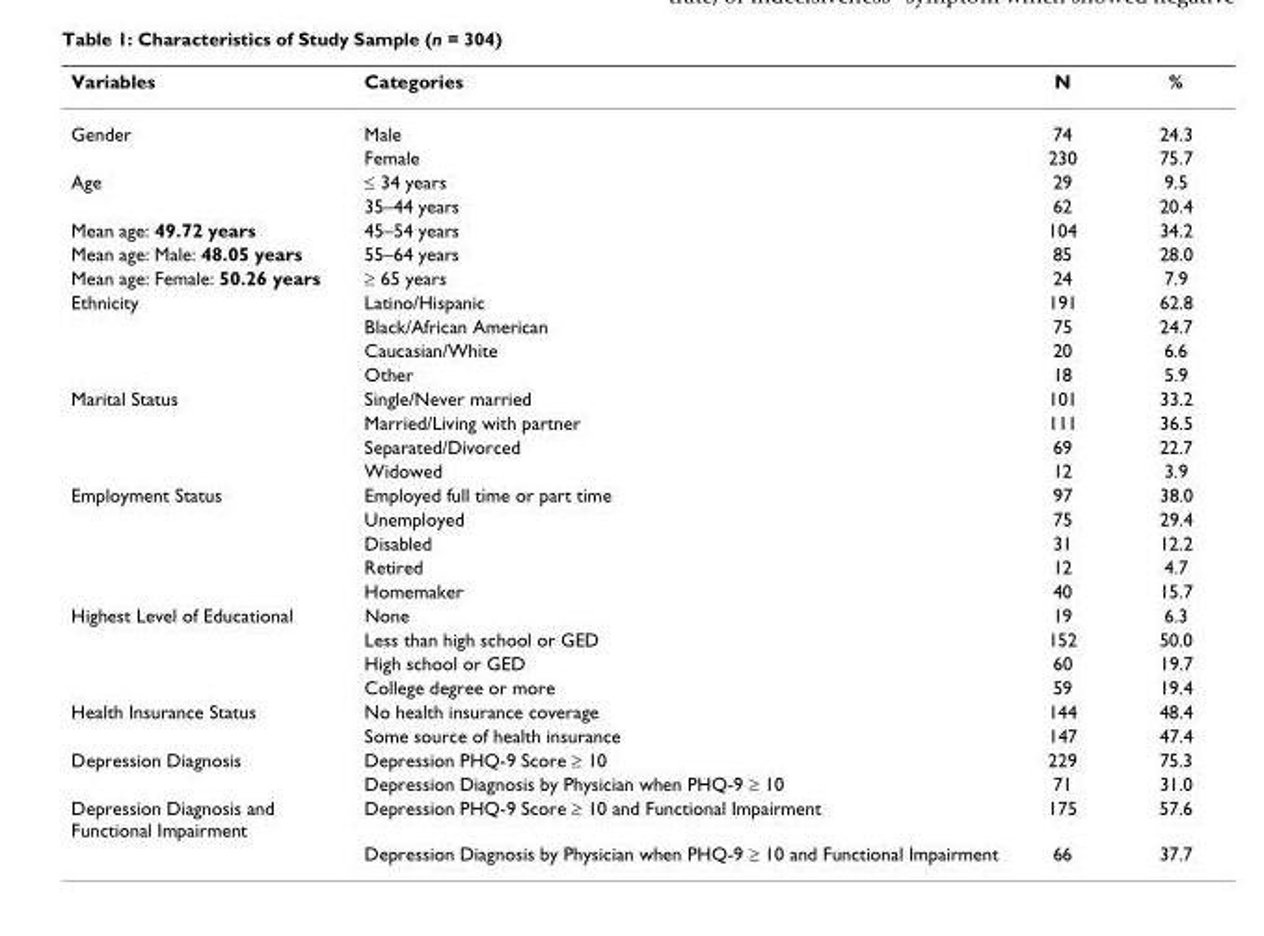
<table><thead><tr><td>Variables</td><td>Categories</td><td>N</td><td>%</td></tr></thead><tbody><tr><td rowspan="2">Gender</td><td>Male</td><td>74</td><td>24.3</td></tr><tr><td>Female</td><td>230</td><td>75.7</td></tr><tr><td rowspan="2">Age</td><td>≤ 34 years</td><td>29</td><td>9.5</td></tr><tr><td>35–44 years</td><td>62</td><td>20.4</td></tr><tr><td>Mean age: 49.72 years</td><td>45–54 years</td><td>104</td><td>34.2</td></tr><tr><td>Mean age: Male: 48.05 years</td><td>55–64 years</td><td>85</td><td>28.0</td></tr><tr><td>Mean age: Female: 50.26 years</td><td>≥ 65 years</td><td>24</td><td>7.9</td></tr><tr><td rowspan="4">Ethnicity</td><td>Latino/Hispanic</td><td>191</td><td>62.8</td></tr><tr><td>Black/African American</td><td>75</td><td>24.7</td></tr><tr><td>Caucasian/White</td><td>20</td><td>6.6</td></tr><tr><td>Other</td><td>18</td><td>5.9</td></tr><tr><td rowspan="4">Marital Status</td><td>Single/Never married</td><td>101</td><td>33.2</td></tr><tr><td>Married/Living with partner</td><td>111</td><td>36.5</td></tr><tr><td>Separated/Divorced</td><td>69</td><td>22.7</td></tr><tr><td>Widowed</td><td>12</td><td>3.9</td></tr><tr><td rowspan="5">Employment Status</td><td>Employed full time or part time</td><td>97</td><td>38.0</td></tr><tr><td>Unemployed</td><td>75</td><td>29.4</td></tr><tr><td>Disabled</td><td>31</td><td>12.2</td></tr><tr><td>Retired</td><td>12</td><td>4.7</td></tr><tr><td>Homemaker</td><td>40</td><td>15.7</td></tr><tr><td rowspan="4">Highest Level of Educational</td><td>None</td><td>19</td><td>6.3</td></tr><tr><td>Less than high school or GED</td><td>152</td><td>50.0</td></tr><tr><td>High school or GED</td><td>60</td><td>19.7</td></tr><tr><td>College degree or more</td><td>59</td><td>19.4</td></tr><tr><td rowspan="2">Health Insurance Status</td><td>No health insurance coverage</td><td>144</td><td>48.4</td></tr><tr><td>Some source of health insurance</td><td>147</td><td>47.4</td></tr><tr><td rowspan="2">Depression Diagnosis</td><td>Depression PHQ-9 Score ≥ 10</td><td>229</td><td>75.3</td></tr><tr><td>Depression Diagnosis by Physician when PHQ-9 ≥ 10</td><td>71</td><td>31.0</td></tr><tr><td rowspan="2">Depression Diagnosis and Functional Impairment</td><td>Depression PHQ-9 Score ≥ 10 and Functional Impairment</td><td>175</td><td>57.6</td></tr><tr><td>Depression Diagnosis by Physician when PHQ-9 ≥ 10 and Functional Impairment</td><td>66</td><td>37.7</td></tr></tbody></table>